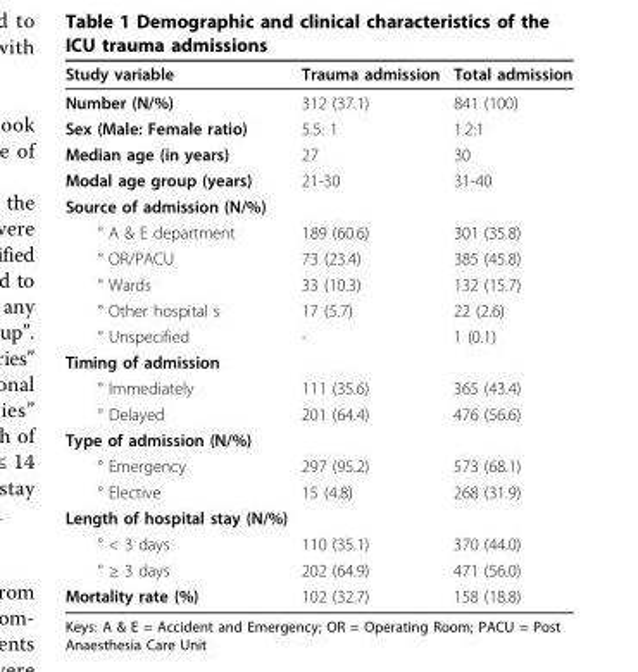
<table><thead><tr><td>Study variable</td><td>Trauma admission</td><td>Total admission</td></tr></thead><tbody><tr><td>Number (N/%)</td><td>312 (37.1)</td><td>841 (100)</td></tr><tr><td>Sex (Male: Female ratio)</td><td>5.5: 1</td><td>1.2:1</td></tr><tr><td>Median age (in years)</td><td>27</td><td>30</td></tr><tr><td>Modal age group (years)</td><td>21-30</td><td>31-40</td></tr><tr><td colspan="3">Source of admission (N/%)</td></tr><tr><td>° A &amp; E department</td><td>189 (60.6)</td><td>301 (35.8)</td></tr><tr><td>° OR/PACU</td><td>73 (23.4)</td><td>385 (45.8)</td></tr><tr><td>° Wards</td><td>33 (10.3)</td><td>132 (15.7)</td></tr><tr><td>° Other hospital s</td><td>17 (5.7)</td><td>22 (2.6)</td></tr><tr><td>° Unspecified</td><td>-</td><td>1 (0.1)</td></tr><tr><td colspan="3">Timing of admission</td></tr><tr><td>° Immediately</td><td>111 (35.6)</td><td>365 (43.4)</td></tr><tr><td>° Delayed</td><td>201 (64.4)</td><td>476 (56.6)</td></tr><tr><td colspan="3">Type of admission (N/%)</td></tr><tr><td>° Emergency</td><td>297 (95.2)</td><td>573 (68.1)</td></tr><tr><td>° Elective</td><td>15 (4.8)</td><td>268 (31.9)</td></tr><tr><td colspan="3">Length of hospital stay (N/%)</td></tr><tr><td>° &lt; 3 days</td><td>110 (35.1)</td><td>370 (44.0)</td></tr><tr><td>° ≥ 3 days</td><td>202 (64.9)</td><td>471 (56.0)</td></tr><tr><td>Mortality rate (%)</td><td>102 (32.7)</td><td>158 (18.8)</td></tr></tbody></table>